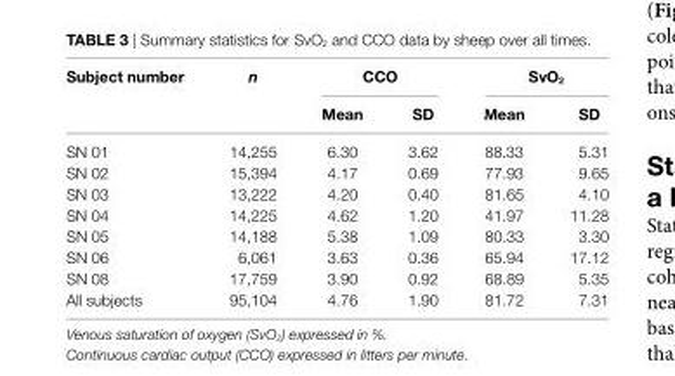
<table><thead><tr><td rowspan="2">subject number</td><td rowspan="2">n</td><td colspan="2">ccO</td><td colspan="2">svO<sub>2</sub></td></tr><tr><td>Mean</td><td>sD</td><td>Mean</td><td>sD</td></tr></thead><tbody><tr><td>SN 01</td><td>14,255</td><td>6.30</td><td>3.62</td><td>88.33</td><td>5.31</td></tr><tr><td>SN 02</td><td>15,394</td><td>4.17</td><td>0.69</td><td>77.93</td><td>9.65</td></tr><tr><td>SN 03</td><td>13,222</td><td>4.20</td><td>0.40</td><td>81.65</td><td>4.10</td></tr><tr><td>SN 04</td><td>14,225</td><td>4.62</td><td>1.20</td><td>41.97</td><td>11.28</td></tr><tr><td>SN 05</td><td>14,188</td><td>5.38</td><td>1.09</td><td>80.33</td><td>3.30</td></tr><tr><td>SN 06</td><td>6,061</td><td>3.63</td><td>0.36</td><td>65.94</td><td>17.12</td></tr><tr><td>SN 08</td><td>17,759</td><td>3.90</td><td>0.92</td><td>68.89</td><td>5.35</td></tr><tr><td>All subjects</td><td>95,104</td><td>4.76</td><td>1.90</td><td>81.72</td><td>7.31</td></tr></tbody></table>